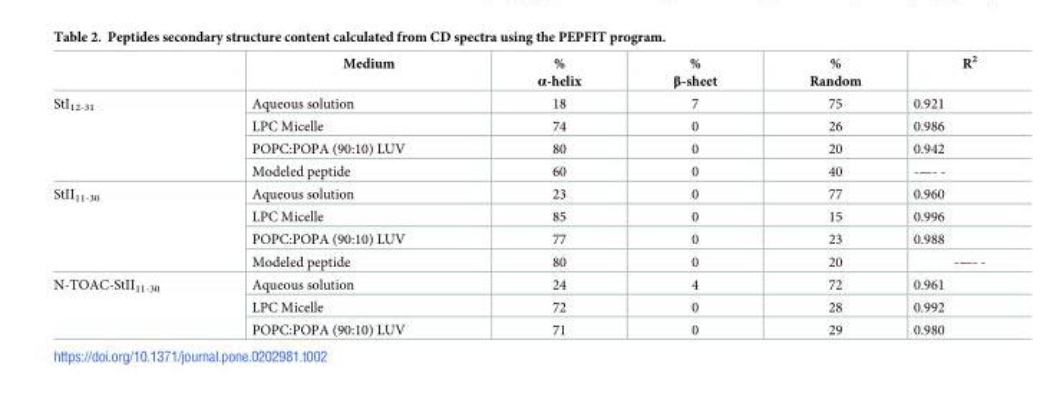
<table><thead><tr><td></td><td>Medium</td><td>% α-helix</td><td>% β-sheet</td><td>% Random</td><td>R<sup>2</sup></td></tr></thead><tbody><tr><td rowspan="4">StI<sub>12-31</sub></td><td>Aqueous solution</td><td>18</td><td>7</td><td>75</td><td>0.921</td></tr><tr><td>LPC Micelle</td><td>74</td><td>0</td><td>26</td><td>0.986</td></tr><tr><td>POPC:POPA (90:10) LUV</td><td>80</td><td>0</td><td>20</td><td>0.942</td></tr><tr><td>Modeled peptide</td><td>60</td><td>0</td><td>40</td><td>-—- -</td></tr><tr><td rowspan="4">StII<sub>11-30</sub></td><td>Aqueous solution</td><td>23</td><td>0</td><td>77</td><td>0.960</td></tr><tr><td>LPC Micelle</td><td>85</td><td>0</td><td>15</td><td>0.996</td></tr><tr><td>POPC:POPA (90:10) LUV</td><td>77</td><td>0</td><td>23</td><td>0.988</td></tr><tr><td>Modeled peptide</td><td>80</td><td>0</td><td>20</td><td>-—- -</td></tr><tr><td rowspan="3">N-TOAC-StII<sub>11-30</sub></td><td>Aqueous solution</td><td>24</td><td>4</td><td>72</td><td>0.961</td></tr><tr><td>LPC Micelle</td><td>72</td><td>0</td><td>28</td><td>0.992</td></tr><tr><td>POPC:POPA (90:10) LUV</td><td>71</td><td>0</td><td>29</td><td>0.980</td></tr></tbody></table>